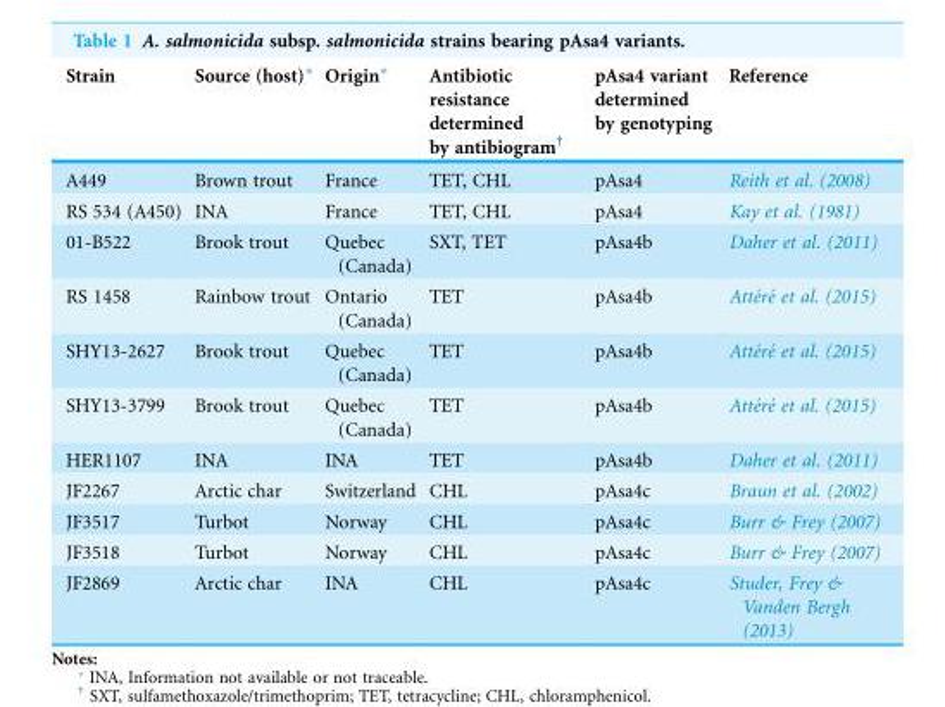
<table><thead><tr><td>Strain</td><td>Source (host)*</td><td>Origin*</td><td>Antibiotic resistance determined by antibiogram<sup>†</sup></td><td>pAsa4 variant determined by genotyping</td><td>Reference</td></tr></thead><tbody><tr><td>A449</td><td>Brown trout</td><td>France</td><td>TET, CHL</td><td>pAsa4</td><td>Reith et al. (2008)</td></tr><tr><td>RS 534 (A450)</td><td>INA</td><td>France</td><td>TET, CHL</td><td>pAsa4</td><td>Kay et al. (1981)</td></tr><tr><td>01-B522</td><td>Brook trout</td><td>Quebec (Canada)</td><td>SXT, TET</td><td>pAsa4b</td><td>Daher et al. (2011)</td></tr><tr><td>RS 1458</td><td>Rainbow trout</td><td>Ontario (Canada)</td><td>TET</td><td>pAsa4b</td><td>Atte´re´ et al. (2015)</td></tr><tr><td>SHY13-2627</td><td>Brook trout</td><td>Quebec (Canada)</td><td>TET</td><td>pAsa4b</td><td>Atte´re´ et al. (2015)</td></tr><tr><td>SHY13-3799</td><td>Brook trout</td><td>Quebec (Canada)</td><td>TET</td><td>pAsa4b</td><td>Atte´re´ et al. (2015)</td></tr><tr><td>HER1107</td><td>INA</td><td>INA</td><td>TET</td><td>pAsa4b</td><td>Daher et al. (2011)</td></tr><tr><td>JF2267</td><td>Arctic char</td><td>Switzerland</td><td>CHL</td><td>pAsa4c</td><td>Braun et al. (2002)</td></tr><tr><td>JF3517</td><td>Turbot</td><td>Norway</td><td>CHL</td><td>pAsa4c</td><td>Burr &amp; Frey (2007)</td></tr><tr><td>JF3518</td><td>Turbot</td><td>Norway</td><td>CHL</td><td>pAsa4c</td><td>Burr &amp; Frey (2007)</td></tr><tr><td>JF2869</td><td>Arctic char</td><td>INA</td><td>CHL</td><td>pAsa4c</td><td>Studer, Frey &amp; Vanden Bergh (2013)</td></tr></tbody></table>